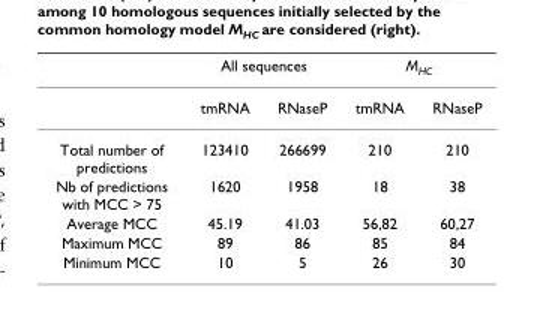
<table><thead><tr><td rowspan="2"></td><td colspan="2">All sequences</td><td colspan="2">M<sub>HC</sub></td></tr><tr><td>tmRNA</td><td>RNaseP</td><td>tmRNA</td><td>RNaseP</td></tr></thead><tbody><tr><td>Total number of predictions</td><td>123410</td><td>266699</td><td>210</td><td>210</td></tr><tr><td>Nb of predictions with MCC &gt; 75</td><td>1620</td><td>1958</td><td>18</td><td>38</td></tr><tr><td>Average MCC</td><td>45.19</td><td>41.03</td><td>56,82</td><td>60,27</td></tr><tr><td>Maximum MCC</td><td>89</td><td>86</td><td>85</td><td>84</td></tr><tr><td>Minimum MCC</td><td>10</td><td>5</td><td>26</td><td>30</td></tr></tbody></table>